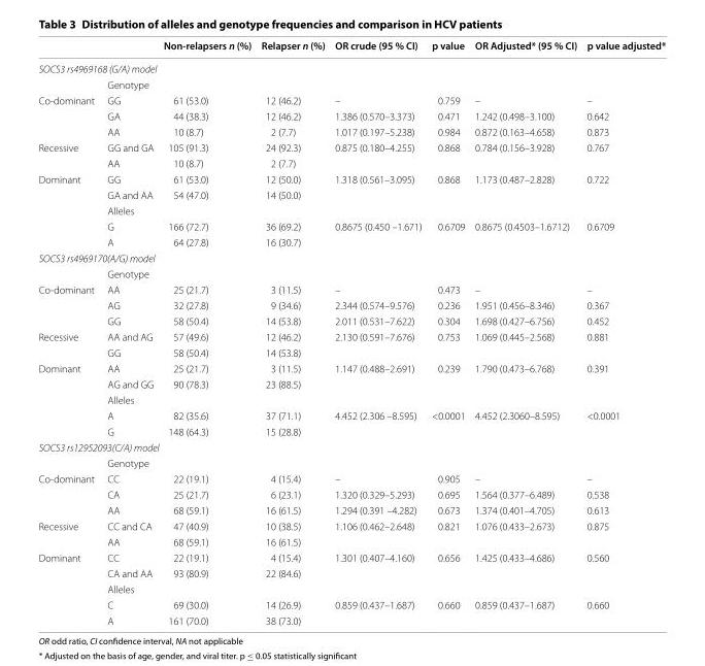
<table><thead><tr><td></td><td></td><td>Non-relapsers n (%)</td><td>Relapser n (%)</td><td>OR crude (95 % CI)</td><td>p value</td><td>OR Adjusted* (95 % CI)</td><td>p value adjusted*</td></tr></thead><tbody><tr><td colspan="8">SOCS3 rs4969168 (G/A) model</td></tr><tr><td></td><td>Genotype</td><td></td><td></td><td></td><td></td><td></td><td></td></tr><tr><td rowspan="3">Co-dominant</td><td>GG</td><td>61 (53.0)</td><td>12 (46.2)</td><td>–</td><td>0.759</td><td>–</td><td>–</td></tr><tr><td>GA</td><td>44 (38.3)</td><td>12 (46.2)</td><td>1.386 (0.570–3.373)</td><td>0.471</td><td>1.242 (0.498–3.100)</td><td>0.642</td></tr><tr><td>AA</td><td>10 (8.7)</td><td>2 (7.7)</td><td>1.017 (0.197–5.238)</td><td>0.984</td><td>0.872 (0.163–4.658)</td><td>0.873</td></tr><tr><td rowspan="2">Recessive</td><td>GG and GA</td><td>105 (91.3)</td><td>24 (92.3)</td><td>0.875 (0.180–4.255)</td><td>0.868</td><td>0.784 (0.156–3.928)</td><td>0.767</td></tr><tr><td>AA</td><td>10 (8.7)</td><td>2 (7.7)</td><td></td><td></td><td></td><td></td></tr><tr><td rowspan="5">Dominant</td><td>GG</td><td>61 (53.0)</td><td>12 (50.0)</td><td>1.318 (0.561–3.095)</td><td>0.868</td><td>1.173 (0.487–2.828)</td><td>0.722</td></tr><tr><td>GA and AA</td><td>54 (47.0)</td><td>14 (50.0)</td><td></td><td></td><td></td><td></td></tr><tr><td>Alleles</td><td></td><td></td><td></td><td></td><td></td><td></td></tr><tr><td>G</td><td>166 (72.7)</td><td>36 (69.2)</td><td>0.8675 (0.450 –1.671)</td><td>0.6709</td><td>0.8675 (0.4503–1.6712)</td><td>0.6709</td></tr><tr><td>A</td><td>64 (27.8)</td><td>16 (30.7)</td><td></td><td></td><td></td><td></td></tr><tr><td colspan="8">SOCS3 rs4969170(A/G) model</td></tr><tr><td></td><td>Genotype</td><td></td><td></td><td></td><td></td><td></td><td></td></tr><tr><td rowspan="3">Co-dominant</td><td>AA</td><td>25 (21.7)</td><td>3 (11.5)</td><td>–</td><td>0.473</td><td>–</td><td>–</td></tr><tr><td>AG</td><td>32 (27.8)</td><td>9 (34.6)</td><td>2.344 (0.574–9.576)</td><td>0.236</td><td>1.951 (0.456–8.346)</td><td>0.367</td></tr><tr><td>GG</td><td>58 (50.4)</td><td>14 (53.8)</td><td>2.011 (0.531–7.622)</td><td>0.304</td><td>1.698 (0.427–6.756)</td><td>0.452</td></tr><tr><td rowspan="2">Recessive</td><td>AA and AG</td><td>57 (49.6)</td><td>12 (46.2)</td><td>2.130 (0.591–7.676)</td><td>0.753</td><td>1.069 (0.445–2.568)</td><td>0.881</td></tr><tr><td>GG</td><td>58 (50.4)</td><td>14 (53.8)</td><td></td><td></td><td></td><td></td></tr><tr><td rowspan="5">Dominant</td><td>AA</td><td>25 (21.7)</td><td>3 (11.5)</td><td>1.147 (0.488–2.691)</td><td>0.239</td><td>1.790 (0.473–6.768)</td><td>0.391</td></tr><tr><td>AG and GG</td><td>90 (78.3)</td><td>23 (88.5)</td><td></td><td></td><td></td><td></td></tr><tr><td>Alleles</td><td></td><td></td><td></td><td></td><td></td><td></td></tr><tr><td>A</td><td>82 (35.6)</td><td>37 (71.1)</td><td>4.452 (2.306 –8.595)</td><td>&lt;0.0001</td><td>4.452 (2.3060–8.595)</td><td>&lt;0.0001</td></tr><tr><td>G</td><td>148 (64.3)</td><td>15 (28.8)</td><td></td><td></td><td></td><td></td></tr><tr><td colspan="8">SOCS3 rs12952093(C/A) model</td></tr><tr><td></td><td>Genotype</td><td></td><td></td><td></td><td></td><td></td><td></td></tr><tr><td rowspan="3">Co-dominant</td><td>CC</td><td>22 (19.1)</td><td>4 (15.4)</td><td>–</td><td>0.905</td><td>–</td><td>–</td></tr><tr><td>CA</td><td>25 (21.7)</td><td>6 (23.1)</td><td>1.320 (0.329–5.293)</td><td>0.695</td><td>1.564 (0.377–6.489)</td><td>0.538</td></tr><tr><td>AA</td><td>68 (59.1)</td><td>16 (61.5)</td><td>1.294 (0.391 –4.282)</td><td>0.673</td><td>1.374 (0.401–4.705)</td><td>0.613</td></tr><tr><td rowspan="2">Recessive</td><td>CC and CA</td><td>47 (40.9)</td><td>10 (38.5)</td><td>1.106 (0.462–2.648)</td><td>0.821</td><td>1.076 (0.433–2.673)</td><td>0.875</td></tr><tr><td>AA</td><td>68 (59.1)</td><td>16 (61.5)</td><td></td><td></td><td></td><td></td></tr><tr><td rowspan="5">Dominant</td><td>CC</td><td>22 (19.1)</td><td>4 (15.4)</td><td>1.301 (0.407–4.160)</td><td>0.656</td><td>1.425 (0.433–4.686)</td><td>0.560</td></tr><tr><td>CA and AA</td><td>93 (80.9)</td><td>22 (84.6)</td><td></td><td></td><td></td><td></td></tr><tr><td>Alleles</td><td></td><td></td><td></td><td></td><td></td><td></td></tr><tr><td>C</td><td>69 (30.0)</td><td>14 (26.9)</td><td>0.859 (0.437–1.687)</td><td>0.660</td><td>0.859 (0.437–1.687)</td><td>0.660</td></tr><tr><td>A</td><td>161 (70.0)</td><td>38 (73.0)</td><td></td><td></td><td></td><td></td></tr></tbody></table>